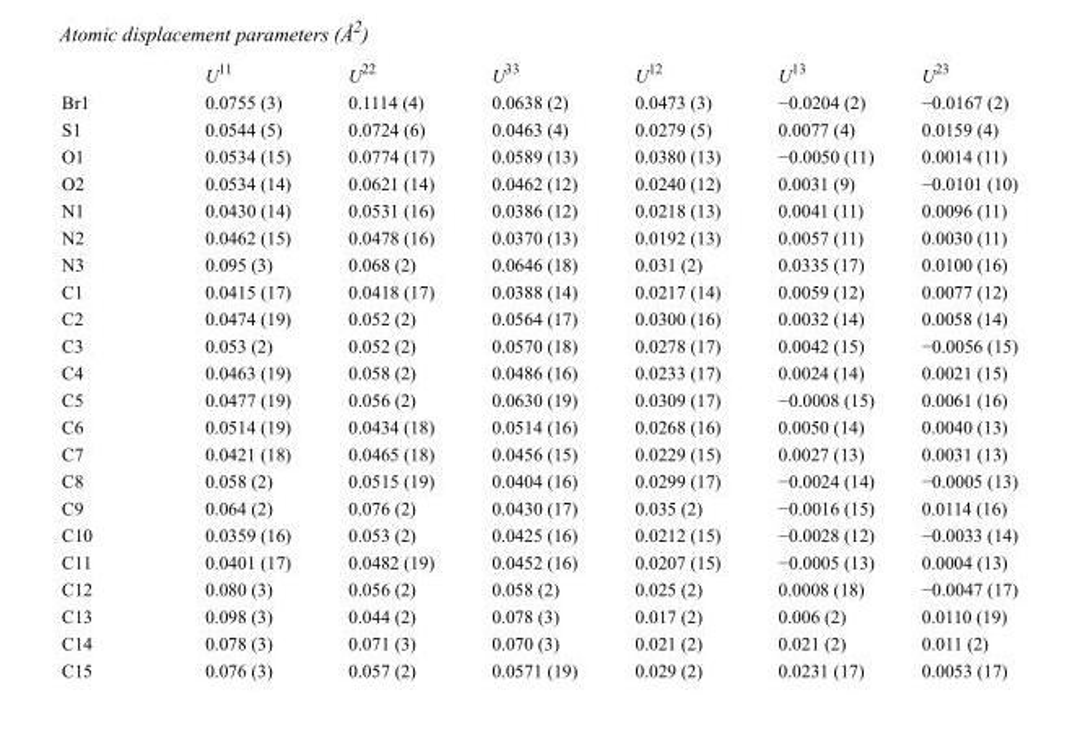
<table><thead><tr><td></td><td>U<sup>11</sup></td><td>U<sup>22</sup></td><td>U<sup>33</sup></td><td>U<sup>12</sup></td><td>U<sup>13</sup></td><td>U<sup>23</sup></td></tr></thead><tbody><tr><td>Br1</td><td>0.0755 (3)</td><td>0.1114 (4)</td><td>0.0638 (2)</td><td>0.0473 (3)</td><td>−0.0204 (2)</td><td>−0.0167 (2)</td></tr><tr><td>S1</td><td>0.0544 (5)</td><td>0.0724 (6)</td><td>0.0463 (4)</td><td>0.0279 (5)</td><td>0.0077 (4)</td><td>0.0159 (4)</td></tr><tr><td>O1</td><td>0.0534 (15)</td><td>0.0774 (17)</td><td>0.0589 (13)</td><td>0.0380 (13)</td><td>−0.0050 (11)</td><td>0.0014 (11)</td></tr><tr><td>O2</td><td>0.0534 (14)</td><td>0.0621 (14)</td><td>0.0462 (12)</td><td>0.0240 (12)</td><td>0.0031 (9)</td><td>−0.0101 (10)</td></tr><tr><td>N1</td><td>0.0430 (14)</td><td>0.0531 (16)</td><td>0.0386 (12)</td><td>0.0218 (13)</td><td>0.0041 (11)</td><td>0.0096 (11)</td></tr><tr><td>N2</td><td>0.0462 (15)</td><td>0.0478 (16)</td><td>0.0370 (13)</td><td>0.0192 (13)</td><td>0.0057 (11)</td><td>0.0030 (11)</td></tr><tr><td>N3</td><td>0.095 (3)</td><td>0.068 (2)</td><td>0.0646 (18)</td><td>0.031 (2)</td><td>0.0335 (17)</td><td>0.0100 (16)</td></tr><tr><td>C1</td><td>0.0415 (17)</td><td>0.0418 (17)</td><td>0.0388 (14)</td><td>0.0217 (14)</td><td>0.0059 (12)</td><td>0.0077 (12)</td></tr><tr><td>C2</td><td>0.0474 (19)</td><td>0.052 (2)</td><td>0.0564 (17)</td><td>0.0300 (16)</td><td>0.0032 (14)</td><td>0.0058 (14)</td></tr><tr><td>C3</td><td>0.053 (2)</td><td>0.052 (2)</td><td>0.0570 (18)</td><td>0.0278 (17)</td><td>0.0042 (15)</td><td>−0.0056 (15)</td></tr><tr><td>C4</td><td>0.0463 (19)</td><td>0.058 (2)</td><td>0.0486 (16)</td><td>0.0233 (17)</td><td>0.0024 (14)</td><td>0.0021 (15)</td></tr><tr><td>C5</td><td>0.0477 (19)</td><td>0.056 (2)</td><td>0.0630 (19)</td><td>0.0309 (17)</td><td>−0.0008 (15)</td><td>0.0061 (16)</td></tr><tr><td>C6</td><td>0.0514 (19)</td><td>0.0434 (18)</td><td>0.0514 (16)</td><td>0.0268 (16)</td><td>0.0050 (14)</td><td>0.0040 (13)</td></tr><tr><td>C7</td><td>0.0421 (18)</td><td>0.0465 (18)</td><td>0.0456 (15)</td><td>0.0229 (15)</td><td>0.0027 (13)</td><td>0.0031 (13)</td></tr><tr><td>C8</td><td>0.058 (2)</td><td>0.0515 (19)</td><td>0.0404 (16)</td><td>0.0299 (17)</td><td>−0.0024 (14)</td><td>−0.0005 (13)</td></tr><tr><td>C9</td><td>0.064 (2)</td><td>0.076 (2)</td><td>0.0430 (17)</td><td>0.035 (2)</td><td>−0.0016 (15)</td><td>0.0114 (16)</td></tr><tr><td>C10</td><td>0.0359 (16)</td><td>0.053 (2)</td><td>0.0425 (16)</td><td>0.0212 (15)</td><td>−0.0028 (12)</td><td>−0.0033 (14)</td></tr><tr><td>C11</td><td>0.0401 (17)</td><td>0.0482 (19)</td><td>0.0452 (16)</td><td>0.0207 (15)</td><td>−0.0005 (13)</td><td>0.0004 (13)</td></tr><tr><td>C12</td><td>0.080 (3)</td><td>0.056 (2)</td><td>0.058 (2)</td><td>0.025 (2)</td><td>0.0008 (18)</td><td>−0.0047 (17)</td></tr><tr><td>C13</td><td>0.098 (3)</td><td>0.044 (2)</td><td>0.078 (3)</td><td>0.017 (2)</td><td>0.006 (2)</td><td>0.0110 (19)</td></tr><tr><td>C14</td><td>0.078 (3)</td><td>0.071 (3)</td><td>0.070 (3)</td><td>0.021 (2)</td><td>0.021 (2)</td><td>0.011 (2)</td></tr><tr><td>C15</td><td>0.076 (3)</td><td>0.057 (2)</td><td>0.0571 (19)</td><td>0.029 (2)</td><td>0.0231 (17)</td><td>0.0053 (17)</td></tr></tbody></table>